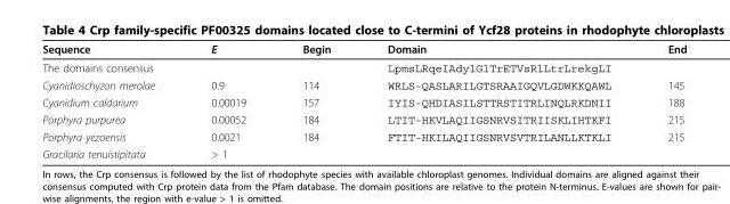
<table><thead><tr><td>Sequence</td><td>E</td><td>Begin</td><td>Domain</td><td>End</td></tr></thead><tbody><tr><td>The domains consensus</td><td></td><td></td><td>LpmsLRqeIAdylGlTrETVsRlLtrLrekgLI</td><td></td></tr><tr><td>Cyanidioschyzon merolae</td><td>0.9</td><td>114</td><td>WRLS-QASLARILGTSRAAIGQVLGDWKKQAWL</td><td>145</td></tr><tr><td>Cyanidium caldarium</td><td>0.00019</td><td>157</td><td>IYIS-QHDIASILSTTRSTITRLINQLRKDNII</td><td>188</td></tr><tr><td>Porphyra purpurea</td><td>0.00052</td><td>184</td><td>LTIT-HKVLAQIIGSNRVSITRIISKLIHTKFI</td><td>215</td></tr><tr><td>Porphyra yezoensis</td><td>0.0021</td><td>184</td><td>FTIT-HKILAQIIGSNRVSVTRILANLLKTKLI</td><td>215</td></tr><tr><td>Gracilaria tenuistipitata</td><td>&gt; 1</td><td></td><td></td><td></td></tr></tbody></table>